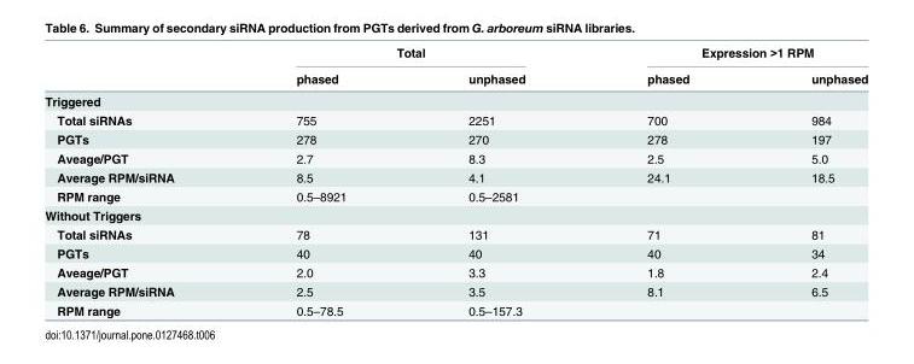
<table><thead><tr><td rowspan="2"></td><td colspan="2">Total</td><td colspan="2">Expression &gt;1 RPM</td></tr><tr><td>phased</td><td>unphased</td><td>phased</td><td>unphased</td></tr></thead><tbody><tr><td colspan="5">Triggered</td></tr><tr><td>Total siRNAs</td><td>755</td><td>2251</td><td>700</td><td>984</td></tr><tr><td>PGTs</td><td>278</td><td>270</td><td>278</td><td>197</td></tr><tr><td>Aveage/PGT</td><td>2.7</td><td>8.3</td><td>2.5</td><td>5.0</td></tr><tr><td>Average RPM/siRNA</td><td>8.5</td><td>4.1</td><td>24.1</td><td>18.5</td></tr><tr><td>RPM range</td><td>0.5–8921</td><td>0.5–2581</td><td></td><td></td></tr><tr><td colspan="5">Without Triggers</td></tr><tr><td>Total siRNAs</td><td>78</td><td>131</td><td>71</td><td>81</td></tr><tr><td>PGTs</td><td>40</td><td>40</td><td>40</td><td>34</td></tr><tr><td>Aveage/PGT</td><td>2.0</td><td>3.3</td><td>1.8</td><td>2.4</td></tr><tr><td>Average RPM/siRNA</td><td>2.5</td><td>3.5</td><td>8.1</td><td>6.5</td></tr><tr><td>RPM range</td><td>0.5–78.5</td><td>0.5–157.3</td><td></td><td></td></tr></tbody></table>